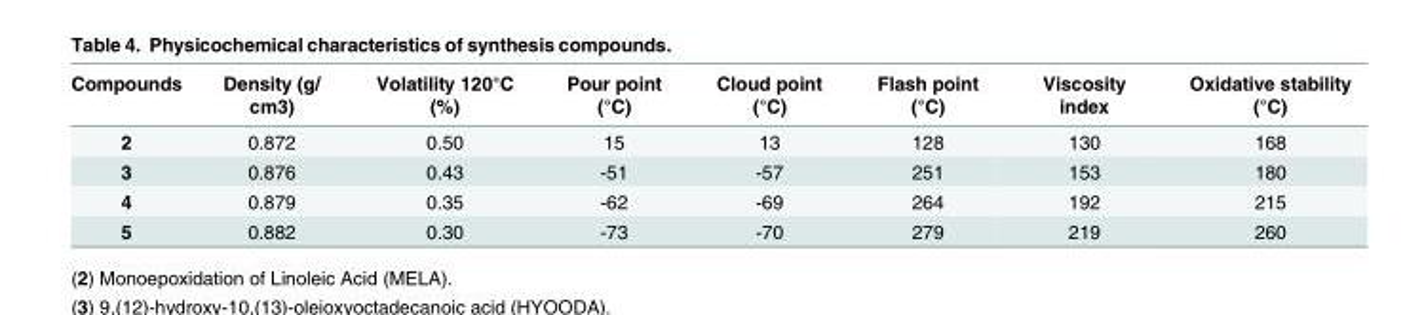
<table><thead><tr><td>Compounds</td><td>Density (g/ cm3)</td><td>Volatility 120°C (%)</td><td>Pour point (°C)</td><td>Cloud point (°C)</td><td>Flash point (°C)</td><td>Viscosity index</td><td>Oxidative stability (°C)</td></tr></thead><tbody><tr><td>2</td><td>0.872</td><td>0.50</td><td>15</td><td>13</td><td>128</td><td>130</td><td>168</td></tr><tr><td>3</td><td>0.876</td><td>0.43</td><td>-51</td><td>-57</td><td>251</td><td>153</td><td>180</td></tr><tr><td>4</td><td>0.879</td><td>0.35</td><td>-62</td><td>-69</td><td>264</td><td>192</td><td>215</td></tr><tr><td>5</td><td>0.882</td><td>0.30</td><td>-73</td><td>-70</td><td>279</td><td>219</td><td>260</td></tr></tbody></table>